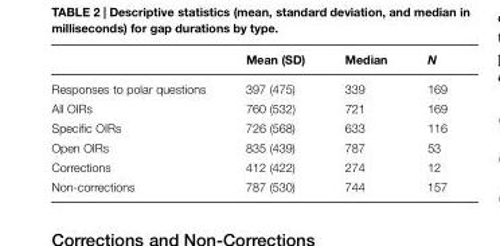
<table><thead><tr><td></td><td>Mean (SD)</td><td>Median</td><td>N</td></tr></thead><tbody><tr><td>Responses to polar questions</td><td>397 (475)</td><td>339</td><td>169</td></tr><tr><td>All OIRs</td><td>760 (532)</td><td>721</td><td>169</td></tr><tr><td>Specific OIRs</td><td>726 (568)</td><td>633</td><td>116</td></tr><tr><td>Open OIRs</td><td>835 (439)</td><td>787</td><td>53</td></tr><tr><td>Corrections</td><td>412 (422)</td><td>274</td><td>12</td></tr><tr><td>Non-corrections</td><td>787 (530)</td><td>744</td><td>157</td></tr></tbody></table>